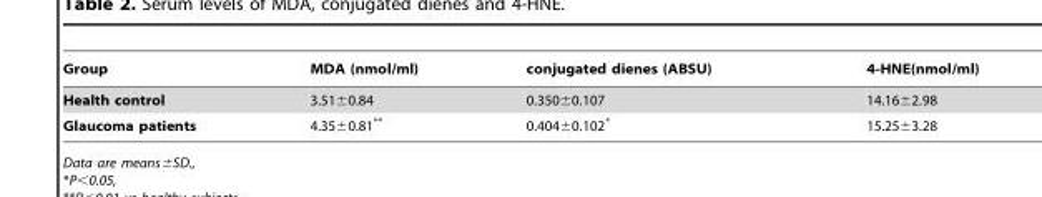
<table><thead><tr><td>Group</td><td>MDA (nmol/ml)</td><td>conjugated dienes (ABSU)</td><td>4-HNE(nmol/ml)</td></tr></thead><tbody><tr><td>Health control</td><td>3.51±0.84</td><td>0.350±0.107</td><td>14.16±2.98</td></tr><tr><td>Glaucoma patients</td><td>4.35±0.81**</td><td>0.404±0.102*</td><td>15.25±3.28</td></tr></tbody></table>